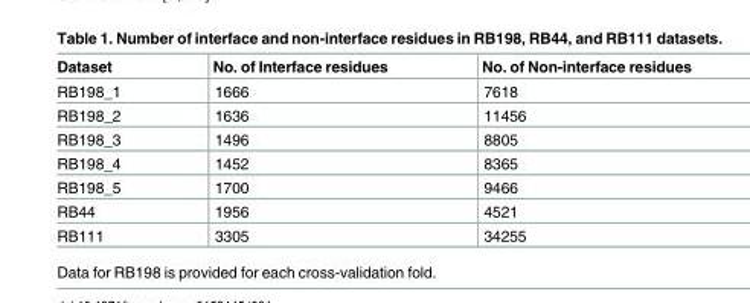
<table><thead><tr><td>Dataset</td><td>No. of Interface residues</td><td>No. of Non-interface residues</td></tr></thead><tbody><tr><td>RB198_1</td><td>1666</td><td>7618</td></tr><tr><td>RB198_2</td><td>1636</td><td>11456</td></tr><tr><td>RB198_3</td><td>1496</td><td>8805</td></tr><tr><td>RB198_4</td><td>1452</td><td>8365</td></tr><tr><td>RB198_5</td><td>1700</td><td>9466</td></tr><tr><td>RB44</td><td>1956</td><td>4521</td></tr><tr><td>RB111</td><td>3305</td><td>34255</td></tr></tbody></table>